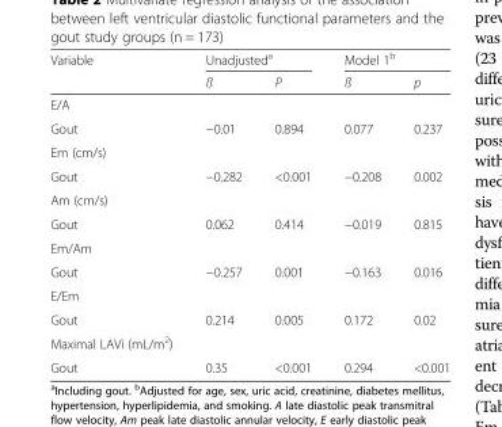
<table><thead><tr><td rowspan="2">Variable</td><td colspan="2">Unadjusted<sup>a</sup></td><td colspan="2">Model 1<sup>b</sup></td></tr><tr><td>ß</td><td>P</td><td>ß</td><td>p</td></tr></thead><tbody><tr><td colspan="5">E/A</td></tr><tr><td>Gout</td><td>−0.01</td><td>0.894</td><td>0.077</td><td>0.237</td></tr><tr><td colspan="5">Em (cm/s)</td></tr><tr><td>Gout</td><td>−0.282</td><td>&lt;0.001</td><td>−0.208</td><td>0.002</td></tr><tr><td colspan="5">Am (cm/s)</td></tr><tr><td>Gout</td><td>0.062</td><td>0.414</td><td>−0.019</td><td>0.815</td></tr><tr><td colspan="5">Em/Am</td></tr><tr><td>Gout</td><td>−0.257</td><td>0.001</td><td>−0.163</td><td>0.016</td></tr><tr><td colspan="5">E/Em</td></tr><tr><td>Gout</td><td>0.214</td><td>0.005</td><td>0.172</td><td>0.02</td></tr><tr><td colspan="5">Maximal LAVi (mL/m<sup>2</sup>)</td></tr><tr><td>Gout</td><td>0.35</td><td>&lt;0.001</td><td>0.294</td><td>&lt;0.001</td></tr></tbody></table>